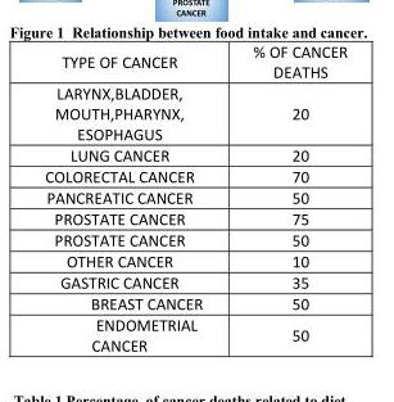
<table><thead><tr><td>TYPE OF CANCER</td><td>% OF CANCER DEATHS</td></tr></thead><tbody><tr><td>LARYNX,BLADDER, MOUTH,PHARYNX, ESOPHAGUS</td><td>20</td></tr><tr><td>LUNG CANCER</td><td>20</td></tr><tr><td>COLORECTAL CANCER</td><td>70</td></tr><tr><td>PANCREATIC CANCER</td><td>50</td></tr><tr><td>PROSTATE CANCER</td><td>75</td></tr><tr><td>PROSTATE CANCER</td><td>50</td></tr><tr><td>OTHER CANCER</td><td>10</td></tr><tr><td>GASTRIC CANCER</td><td>35</td></tr><tr><td>BREAST CANCER</td><td>50</td></tr><tr><td>ENDOMETRIAL CANCER</td><td>50</td></tr></tbody></table>